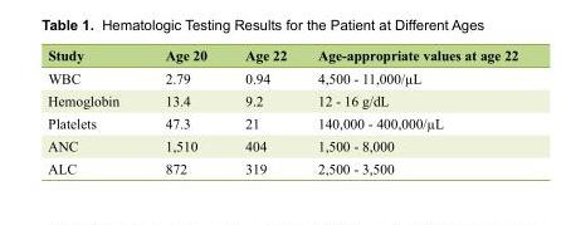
<table><thead><tr><td>Study</td><td>Age 20</td><td>Age 22</td><td>Age-appropriate values at age 22</td></tr></thead><tbody><tr><td>WBC</td><td>2.79</td><td>0.94</td><td>4,500 - 11,000/µL</td></tr><tr><td>Hemoglobin</td><td>13.4</td><td>9.2</td><td>12 - 16 g/dL</td></tr><tr><td>Platelets</td><td>47.3</td><td>21</td><td>140,000 - 400,000/µL</td></tr><tr><td>ANC</td><td>1,510</td><td>404</td><td>1,500 - 8,000</td></tr><tr><td>ALC</td><td>872</td><td>319</td><td>2,500 - 3,500</td></tr></tbody></table>